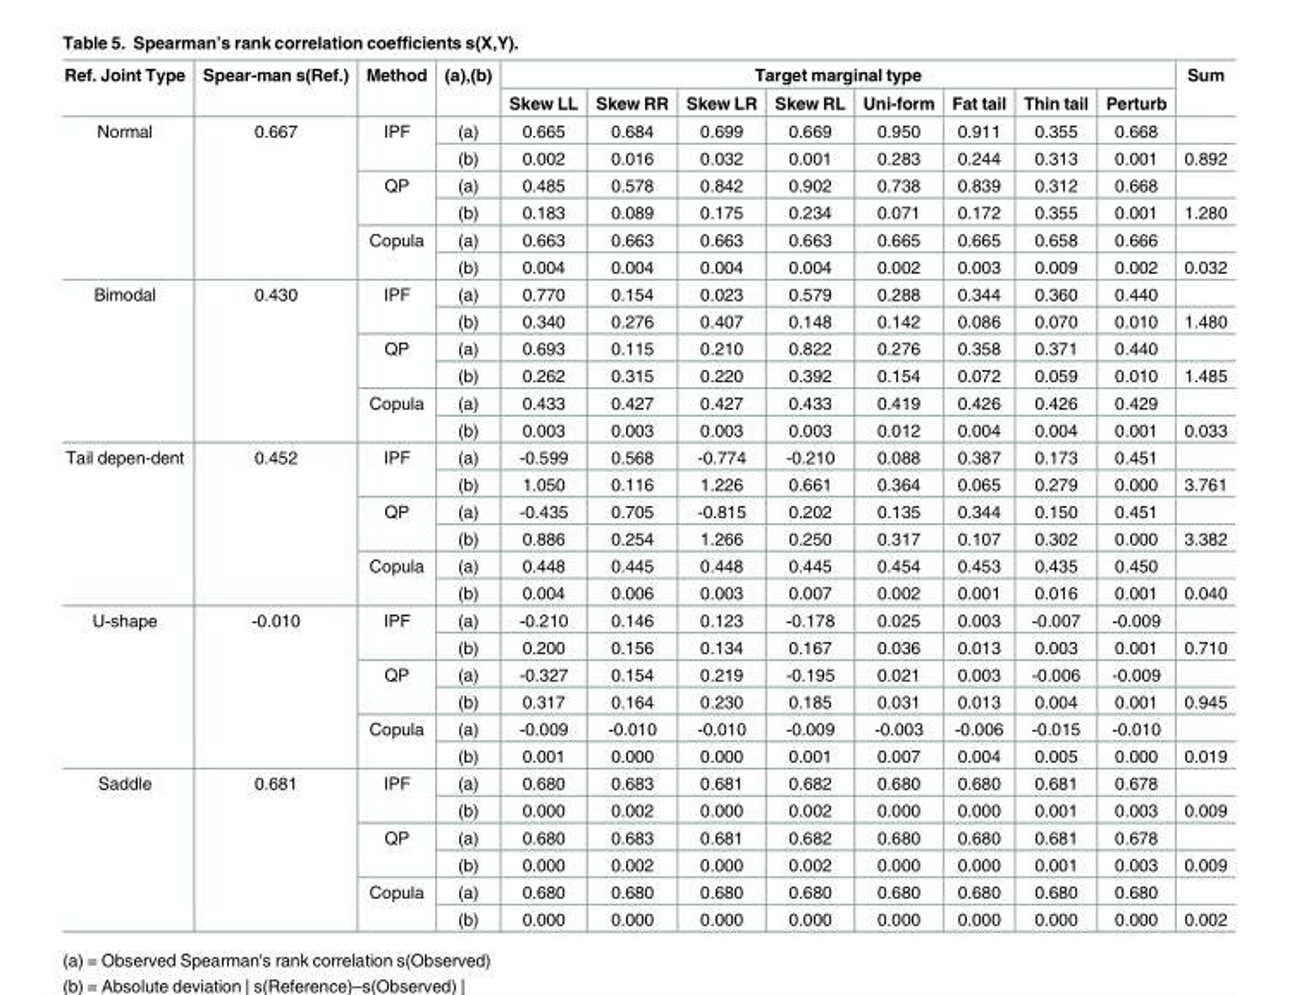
<table><thead><tr><td rowspan="2">Ref. Joint Type</td><td rowspan="2">Spear-man s(Ref.)</td><td rowspan="2">Method</td><td rowspan="2">(a),(b)</td><td colspan="8">Target marginal type</td><td rowspan="2">Sum</td></tr><tr><td>Skew LL</td><td>Skew RR</td><td>Skew LR</td><td>Skew RL</td><td>Uni-form</td><td>Fat tail</td><td>Thin tail</td><td>Perturb</td></tr></thead><tbody><tr><td rowspan="6">Normal</td><td rowspan="6">0.667</td><td rowspan="2">IPF</td><td>(a)</td><td>0.665</td><td>0.684</td><td>0.699</td><td>0.669</td><td>0.950</td><td>0.911</td><td>0.355</td><td>0.668</td><td></td></tr><tr><td>(b)</td><td>0.002</td><td>0.016</td><td>0.032</td><td>0.001</td><td>0.283</td><td>0.244</td><td>0.313</td><td>0.001</td><td>0.892</td></tr><tr><td rowspan="2">QP</td><td>(a)</td><td>0.485</td><td>0.578</td><td>0.842</td><td>0.902</td><td>0.738</td><td>0.839</td><td>0.312</td><td>0.668</td><td></td></tr><tr><td>(b)</td><td>0.183</td><td>0.089</td><td>0.175</td><td>0.234</td><td>0.071</td><td>0.172</td><td>0.355</td><td>0.001</td><td>1.280</td></tr><tr><td rowspan="2">Copula</td><td>(a)</td><td>0.663</td><td>0.663</td><td>0.663</td><td>0.663</td><td>0.665</td><td>0.665</td><td>0.658</td><td>0.666</td><td></td></tr><tr><td>(b)</td><td>0.004</td><td>0.004</td><td>0.004</td><td>0.004</td><td>0.002</td><td>0.003</td><td>0.009</td><td>0.002</td><td>0.032</td></tr><tr><td rowspan="6">Bimodal</td><td rowspan="6">0.430</td><td rowspan="2">IPF</td><td>(a)</td><td>0.770</td><td>0.154</td><td>0.023</td><td>0.579</td><td>0.288</td><td>0.344</td><td>0.360</td><td>0.440</td><td></td></tr><tr><td>(b)</td><td>0.340</td><td>0.276</td><td>0.407</td><td>0.148</td><td>0.142</td><td>0.086</td><td>0.070</td><td>0.010</td><td>1.480</td></tr><tr><td rowspan="2">QP</td><td>(a)</td><td>0.693</td><td>0.115</td><td>0.210</td><td>0.822</td><td>0.276</td><td>0.358</td><td>0.371</td><td>0.440</td><td></td></tr><tr><td>(b)</td><td>0.262</td><td>0.315</td><td>0.220</td><td>0.392</td><td>0.154</td><td>0.072</td><td>0.059</td><td>0.010</td><td>1.485</td></tr><tr><td rowspan="2">Copula</td><td>(a)</td><td>0.433</td><td>0.427</td><td>0.427</td><td>0.433</td><td>0.419</td><td>0.426</td><td>0.426</td><td>0.429</td><td></td></tr><tr><td>(b)</td><td>0.003</td><td>0.003</td><td>0.003</td><td>0.003</td><td>0.012</td><td>0.004</td><td>0.004</td><td>0.001</td><td>0.033</td></tr><tr><td rowspan="6">Tail depen-dent</td><td rowspan="6">0.452</td><td rowspan="2">IPF</td><td>(a)</td><td>-0.599</td><td>0.568</td><td>-0.774</td><td>-0.210</td><td>0.088</td><td>0.387</td><td>0.173</td><td>0.451</td><td></td></tr><tr><td>(b)</td><td>1.050</td><td>0.116</td><td>1.226</td><td>0.661</td><td>0.364</td><td>0.065</td><td>0.279</td><td>0.000</td><td>3.761</td></tr><tr><td rowspan="2">QP</td><td>(a)</td><td>-0.435</td><td>0.705</td><td>-0.815</td><td>0.202</td><td>0.135</td><td>0.344</td><td>0.150</td><td>0.451</td><td></td></tr><tr><td>(b)</td><td>0.886</td><td>0.254</td><td>1.266</td><td>0.250</td><td>0.317</td><td>0.107</td><td>0.302</td><td>0.000</td><td>3.382</td></tr><tr><td rowspan="2">Copula</td><td>(a)</td><td>0.448</td><td>0.445</td><td>0.448</td><td>0.445</td><td>0.454</td><td>0.453</td><td>0.435</td><td>0.450</td><td></td></tr><tr><td>(b)</td><td>0.004</td><td>0.006</td><td>0.003</td><td>0.007</td><td>0.002</td><td>0.001</td><td>0.016</td><td>0.001</td><td>0.040</td></tr><tr><td rowspan="6">U-shape</td><td rowspan="6">-0.010</td><td rowspan="2">IPF</td><td>(a)</td><td>-0.210</td><td>0.146</td><td>0.123</td><td>-0.178</td><td>0.025</td><td>0.003</td><td>-0.007</td><td>-0.009</td><td></td></tr><tr><td>(b)</td><td>0.200</td><td>0.156</td><td>0.134</td><td>0.167</td><td>0.036</td><td>0.013</td><td>0.003</td><td>0.001</td><td>0.710</td></tr><tr><td rowspan="2">QP</td><td>(a)</td><td>-0.327</td><td>0.154</td><td>0.219</td><td>-0.195</td><td>0.021</td><td>0.003</td><td>-0.006</td><td>-0.009</td><td></td></tr><tr><td>(b)</td><td>0.317</td><td>0.164</td><td>0.230</td><td>0.185</td><td>0.031</td><td>0.013</td><td>0.004</td><td>0.001</td><td>0.945</td></tr><tr><td rowspan="2">Copula</td><td>(a)</td><td>-0.009</td><td>-0.010</td><td>-0.010</td><td>-0.009</td><td>-0.003</td><td>-0.006</td><td>-0.015</td><td>-0.010</td><td></td></tr><tr><td>(b)</td><td>0.001</td><td>0.000</td><td>0.000</td><td>0.001</td><td>0.007</td><td>0.004</td><td>0.005</td><td>0.000</td><td>0.019</td></tr><tr><td rowspan="6">Saddle</td><td rowspan="6">0.681</td><td rowspan="2">IPF</td><td>(a)</td><td>0.680</td><td>0.683</td><td>0.681</td><td>0.682</td><td>0.680</td><td>0.680</td><td>0.681</td><td>0.678</td><td></td></tr><tr><td>(b)</td><td>0.000</td><td>0.002</td><td>0.000</td><td>0.002</td><td>0.000</td><td>0.000</td><td>0.001</td><td>0.003</td><td>0.009</td></tr><tr><td rowspan="2">QP</td><td>(a)</td><td>0.680</td><td>0.683</td><td>0.681</td><td>0.682</td><td>0.680</td><td>0.680</td><td>0.681</td><td>0.678</td><td></td></tr><tr><td>(b)</td><td>0.000</td><td>0.002</td><td>0.000</td><td>0.002</td><td>0.000</td><td>0.000</td><td>0.001</td><td>0.003</td><td>0.009</td></tr><tr><td rowspan="2">Copula</td><td>(a)</td><td>0.680</td><td>0.680</td><td>0.680</td><td>0.680</td><td>0.680</td><td>0.680</td><td>0.680</td><td>0.680</td><td></td></tr><tr><td>(b)</td><td>0.000</td><td>0.000</td><td>0.000</td><td>0.000</td><td>0.000</td><td>0.000</td><td>0.000</td><td>0.000</td><td>0.002</td></tr></tbody></table>